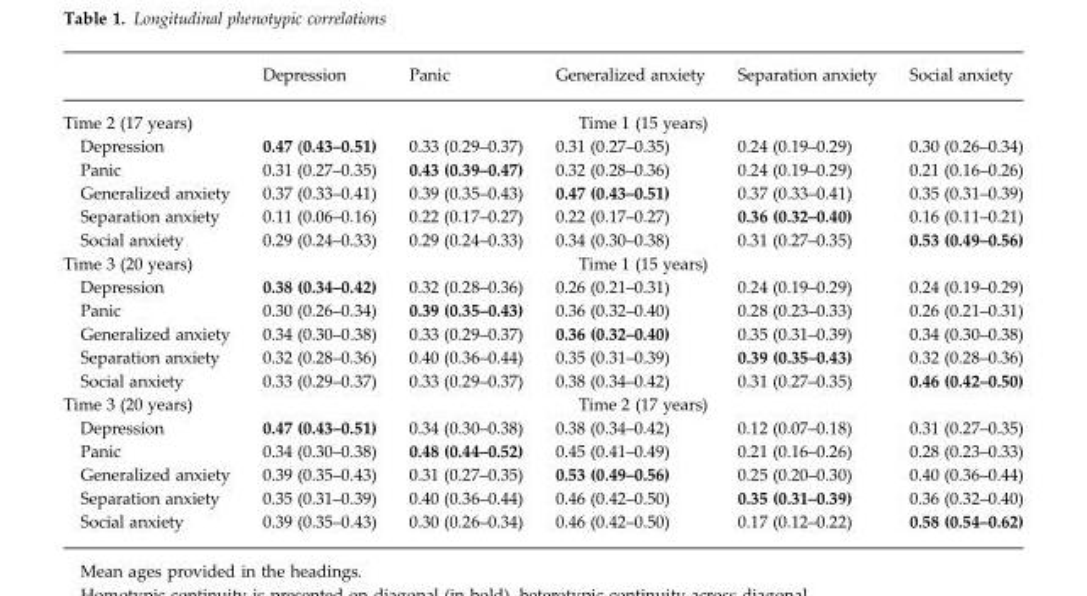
<table><thead><tr><td></td><td>Depression</td><td>Panic</td><td>Generalized anxiety</td><td>Separation anxiety</td><td>Social anxiety</td></tr></thead><tbody><tr><td>Time 2 (17 years)</td><td colspan="5">Time 1 (15 years)</td></tr><tr><td>Depression</td><td>0.47 (0.43–0.51)</td><td>0.33 (0.29–0.37)</td><td>0.31 (0.27–0.35)</td><td>0.24 (0.19–0.29)</td><td>0.30 (0.26–0.34)</td></tr><tr><td>Panic</td><td>0.31 (0.27–0.35)</td><td>0.43 (0.39–0.47)</td><td>0.32 (0.28–0.36)</td><td>0.24 (0.19–0.29)</td><td>0.21 (0.16–0.26)</td></tr><tr><td>Generalized anxiety</td><td>0.37 (0.33–0.41)</td><td>0.39 (0.35–0.43)</td><td>0.47 (0.43–0.51)</td><td>0.37 (0.33–0.41)</td><td>0.35 (0.31–0.39)</td></tr><tr><td>Separation anxiety</td><td>0.11 (0.06–0.16)</td><td>0.22 (0.17–0.27)</td><td>0.22 (0.17–0.27)</td><td>0.36 (0.32–0.40)</td><td>0.16 (0.11–0.21)</td></tr><tr><td>Social anxiety</td><td>0.29 (0.24–0.33)</td><td>0.29 (0.24–0.33)</td><td>0.34 (0.30–0.38)</td><td>0.31 (0.27–0.35)</td><td>0.53 (0.49–0.56)</td></tr><tr><td>Time 3 (20 years)</td><td colspan="5">Time 1 (15 years)</td></tr><tr><td>Depression</td><td>0.38 (0.34–0.42)</td><td>0.32 (0.28–0.36)</td><td>0.26 (0.21–0.31)</td><td>0.24 (0.19–0.29)</td><td>0.24 (0.19–0.29)</td></tr><tr><td>Panic</td><td>0.30 (0.26–0.34)</td><td>0.39 (0.35–0.43)</td><td>0.36 (0.32–0.40)</td><td>0.28 (0.23–0.33)</td><td>0.26 (0.21–0.31)</td></tr><tr><td>Generalized anxiety</td><td>0.34 (0.30–0.38)</td><td>0.33 (0.29–0.37)</td><td>0.36 (0.32–0.40)</td><td>0.35 (0.31–0.39)</td><td>0.34 (0.30–0.38)</td></tr><tr><td>Separation anxiety</td><td>0.32 (0.28–0.36)</td><td>0.40 (0.36–0.44)</td><td>0.35 (0.31–0.39)</td><td>0.39 (0.35–0.43)</td><td>0.32 (0.28–0.36)</td></tr><tr><td>Social anxiety</td><td>0.33 (0.29–0.37)</td><td>0.33 (0.29–0.37)</td><td>0.38 (0.34–0.42)</td><td>0.31 (0.27–0.35)</td><td>0.46 (0.42–0.50)</td></tr><tr><td>Time 3 (20 years)</td><td colspan="5">Time 2 (17 years)</td></tr><tr><td>Depression</td><td>0.47 (0.43–0.51)</td><td>0.34 (0.30–0.38)</td><td>0.38 (0.34–0.42)</td><td>0.12 (0.07–0.18)</td><td>0.31 (0.27–0.35)</td></tr><tr><td>Panic</td><td>0.34 (0.30–0.38)</td><td>0.48 (0.44–0.52)</td><td>0.45 (0.41–0.49)</td><td>0.21 (0.16–0.26)</td><td>0.28 (0.23–0.33)</td></tr><tr><td>Generalized anxiety</td><td>0.39 (0.35–0.43)</td><td>0.31 (0.27–0.35)</td><td>0.53 (0.49–0.56)</td><td>0.25 (0.20–0.30)</td><td>0.40 (0.36–0.44)</td></tr><tr><td>Separation anxiety</td><td>0.35 (0.31–0.39)</td><td>0.40 (0.36–0.44)</td><td>0.46 (0.42–0.50)</td><td>0.35 (0.31–0.39)</td><td>0.36 (0.32–0.40)</td></tr><tr><td>Social anxiety</td><td>0.39 (0.35–0.43)</td><td>0.30 (0.26–0.34)</td><td>0.46 (0.42–0.50)</td><td>0.17 (0.12–0.22)</td><td>0.58 (0.54–0.62)</td></tr></tbody></table>